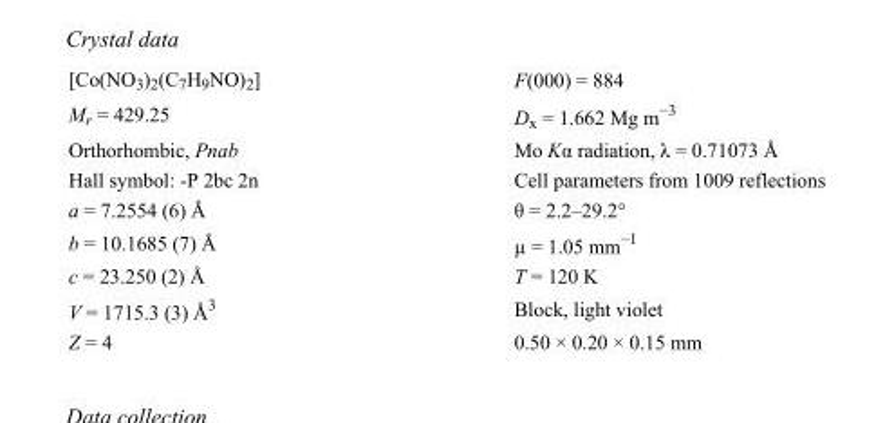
<table><tbody><tr><td>[Co(NO<sub>3</sub>)<sub>2</sub>(C<sub>7</sub>H<sub>9</sub>NO)<sub>2</sub>]</td><td>F(000) = 884</td></tr><tr><td>M<sub>r</sub> = 429.25</td><td>D<sub>x</sub> = 1.662 Mg m<sup>−3</sup></td></tr><tr><td>Orthorhombic, Pnab</td><td>Mo Kα radiation, λ = 0.71073 Å</td></tr><tr><td>Hall symbol: -P 2bc 2n</td><td>Cell parameters from 1009 reflections</td></tr><tr><td>a = 7.2554 (6) Å</td><td>θ = 2.2–29.2°</td></tr><tr><td>b = 10.1685 (7) Å</td><td>µ = 1.05 mm<sup>−1</sup></td></tr><tr><td>c = 23.250 (2) Å</td><td>T = 120 K</td></tr><tr><td>V = 1715.3 (3) Å<sup>3</sup></td><td>Block, light violet</td></tr><tr><td>Z = 4</td><td>0.50 × 0.20 × 0.15 mm</td></tr></tbody></table>